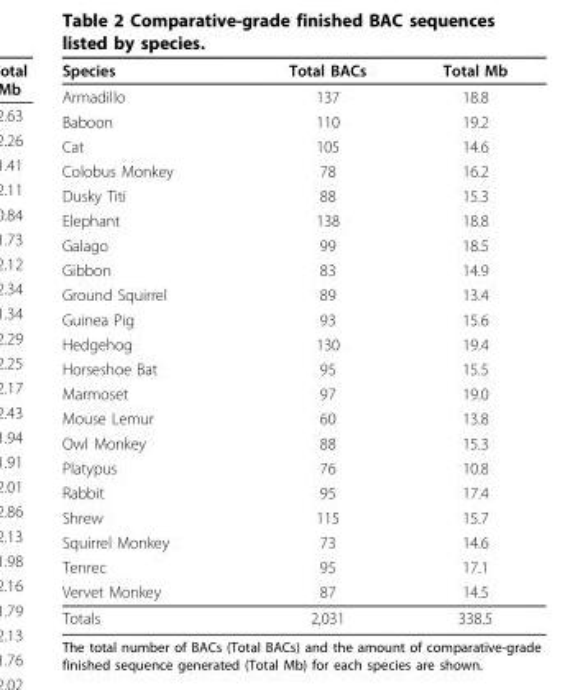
<table><thead><tr><td>Species</td><td>Total BACs</td><td>Total Mb</td></tr></thead><tbody><tr><td>Armadillo</td><td>137</td><td>18.8</td></tr><tr><td>Baboon</td><td>110</td><td>19.2</td></tr><tr><td>Cat</td><td>105</td><td>14.6</td></tr><tr><td>Colobus Monkey</td><td>78</td><td>16.2</td></tr><tr><td>Dusky Titi</td><td>88</td><td>15.3</td></tr><tr><td>Elephant</td><td>138</td><td>18.8</td></tr><tr><td>Galago</td><td>99</td><td>18.5</td></tr><tr><td>Gibbon</td><td>83</td><td>14.9</td></tr><tr><td>Ground Squirrel</td><td>89</td><td>13.4</td></tr><tr><td>Guinea Pig</td><td>93</td><td>15.6</td></tr><tr><td>Hedgehog</td><td>130</td><td>19.4</td></tr><tr><td>Horseshoe Bat</td><td>95</td><td>15.5</td></tr><tr><td>Marmoset</td><td>97</td><td>19.0</td></tr><tr><td>Mouse Lemur</td><td>60</td><td>13.8</td></tr><tr><td>Owl Monkey</td><td>88</td><td>15.3</td></tr><tr><td>Platypus</td><td>76</td><td>10.8</td></tr><tr><td>Rabbit</td><td>95</td><td>17.4</td></tr><tr><td>Shrew</td><td>115</td><td>15.7</td></tr><tr><td>Squirrel Monkey</td><td>73</td><td>14.6</td></tr><tr><td>Tenrec</td><td>95</td><td>17.1</td></tr><tr><td>Vervet Monkey</td><td>87</td><td>14.5</td></tr><tr><td>Totals</td><td>2,031</td><td>338.5</td></tr></tbody></table>